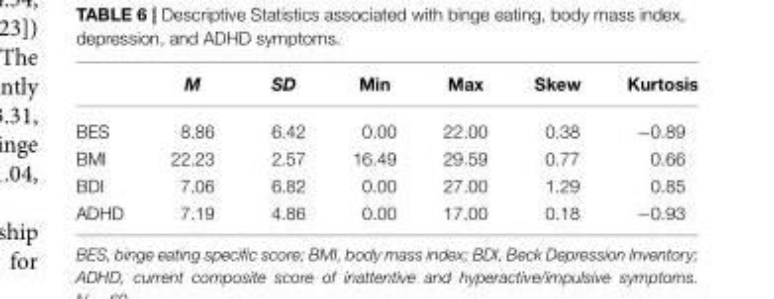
<table><thead><tr><td></td><td>M</td><td>SD</td><td>Min</td><td>Max</td><td>Skew</td><td>Kurtosis</td></tr></thead><tbody><tr><td>BES</td><td>8.86</td><td>6.42</td><td>0.00</td><td>22.00</td><td>0.38</td><td>−0.89</td></tr><tr><td>BMI</td><td>22.23</td><td>2.57</td><td>16.49</td><td>29.59</td><td>0.77</td><td>0.66</td></tr><tr><td>BDI</td><td>7.06</td><td>6.82</td><td>0.00</td><td>27.00</td><td>1.29</td><td>0.85</td></tr><tr><td>ADHD</td><td>7.19</td><td>4.86</td><td>0.00</td><td>17.00</td><td>0.18</td><td>−0.93</td></tr></tbody></table>